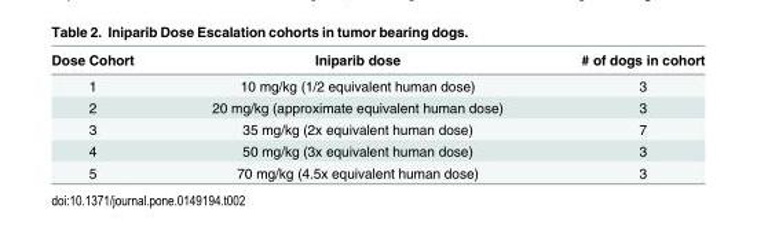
<table><thead><tr><td>Dose Cohort</td><td>Iniparib dose</td><td># of dogs in cohort</td></tr></thead><tbody><tr><td>1</td><td>10 mg/kg (1/2 equivalent human dose)</td><td>3</td></tr><tr><td>2</td><td>20 mg/kg (approximate equivalent human dose)</td><td>3</td></tr><tr><td>3</td><td>35 mg/kg (2x equivalent human dose)</td><td>7</td></tr><tr><td>4</td><td>50 mg/kg (3x equivalent human dose)</td><td>3</td></tr><tr><td>5</td><td>70 mg/kg (4.5x equivalent human dose)</td><td>3</td></tr></tbody></table>